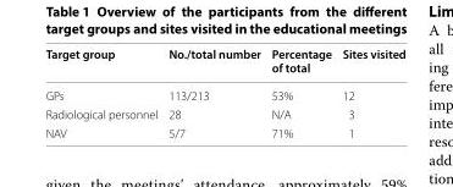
<table><thead><tr><td>Target group</td><td>No./total number</td><td>Percentage of total</td><td>Sites visited</td></tr></thead><tbody><tr><td>GPs</td><td>113/213</td><td>53%</td><td>12</td></tr><tr><td>Radiological personnel</td><td>28</td><td>N/A</td><td>3</td></tr><tr><td>NAV</td><td>5/7</td><td>71%</td><td>1</td></tr></tbody></table>